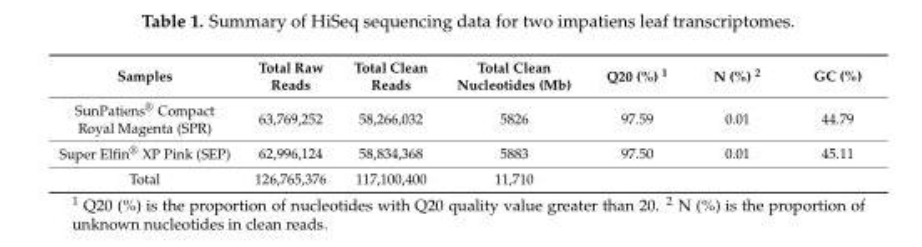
<table><thead><tr><td>Samples</td><td>Total Raw Reads</td><td>Total Clean Reads</td><td>Total Clean Nucleotides (Mb)</td><td>Q20 (%) <sup>1</sup></td><td>N (%) <sup>2</sup></td><td>GC (%)</td></tr></thead><tbody><tr><td>SunPatiens<sup>®</sup> Compact Royal Magenta (SPR)</td><td>63,769,252</td><td>58,266,032</td><td>5826</td><td>97.59</td><td>0.01</td><td>44.79</td></tr><tr><td>Super Elfin<sup>®</sup> XP Pink (SEP)</td><td>62,996,124</td><td>58,834,368</td><td>5883</td><td>97.50</td><td>0.01</td><td>45.11</td></tr><tr><td>Total</td><td>126,765,376</td><td>117,100,400</td><td>11,710</td><td></td><td></td><td></td></tr></tbody></table>